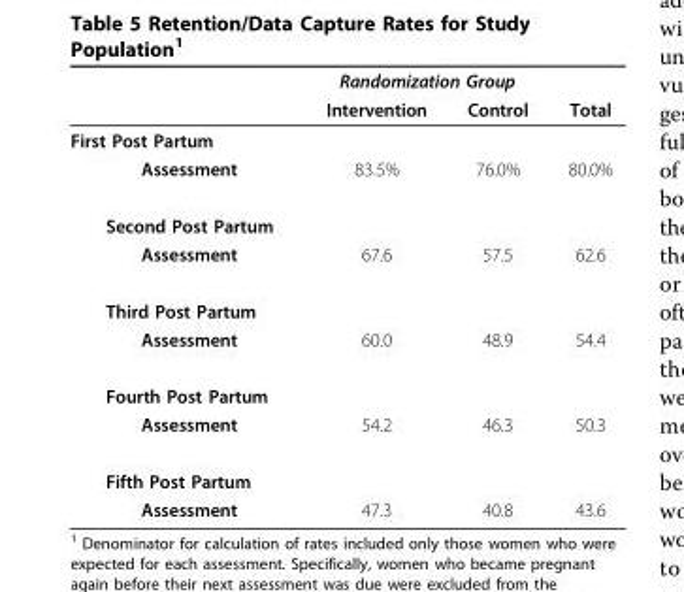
<table><thead><tr><td rowspan="2"></td><td colspan="2">Randomization Group</td><td rowspan="2">Total</td></tr><tr><td>Intervention</td><td>Control</td></tr></thead><tbody><tr><td colspan="4">First Post Partum</td></tr><tr><td>Assessment</td><td>83.5%</td><td>76.0%</td><td>80.0%</td></tr><tr><td colspan="4">Second Post Partum</td></tr><tr><td>Assessment</td><td>67.6</td><td>57.5</td><td>62.6</td></tr><tr><td colspan="4">Third Post Partum</td></tr><tr><td>Assessment</td><td>60.0</td><td>48.9</td><td>54.4</td></tr><tr><td colspan="4">Fourth Post Partum</td></tr><tr><td>Assessment</td><td>54.2</td><td>46.3</td><td>50.3</td></tr><tr><td colspan="4">Fifth Post Partum</td></tr><tr><td>Assessment</td><td>47.3</td><td>40.8</td><td>43.6</td></tr></tbody></table>